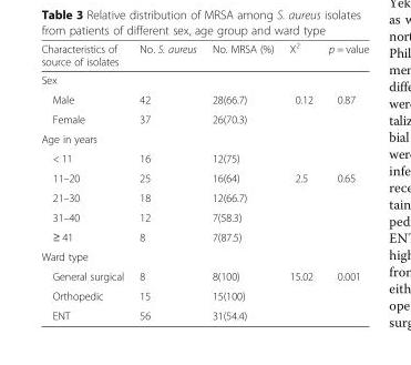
<table><thead><tr><td>Characteristics of source of isolates</td><td>No. S. aureus</td><td>No. MRSA (%)</td><td>X<sup>2</sup></td><td>p = value</td></tr></thead><tbody><tr><td colspan="5">Sex</td></tr><tr><td>Male</td><td>42</td><td>28(66.7)</td><td>0.12</td><td>0.87</td></tr><tr><td>Female</td><td>37</td><td>26(70.3)</td><td></td><td></td></tr><tr><td colspan="5">Age in years</td></tr><tr><td>&lt; 11</td><td>16</td><td>12(75)</td><td></td><td></td></tr><tr><td>11–20</td><td>25</td><td>16(64)</td><td>2.5</td><td>0.65</td></tr><tr><td>21–30</td><td>18</td><td>12(66.7)</td><td></td><td></td></tr><tr><td>31–40</td><td>12</td><td>7(58.3)</td><td></td><td></td></tr><tr><td>≥ 41</td><td>8</td><td>7(87.5)</td><td></td><td></td></tr><tr><td colspan="5">Ward type</td></tr><tr><td>General surgical</td><td>8</td><td>8(100)</td><td>15.02</td><td>0.001</td></tr><tr><td>Orthopedic</td><td>15</td><td>15(100)</td><td></td><td></td></tr><tr><td>ENT</td><td>56</td><td>31(54.4)</td><td></td><td></td></tr></tbody></table>